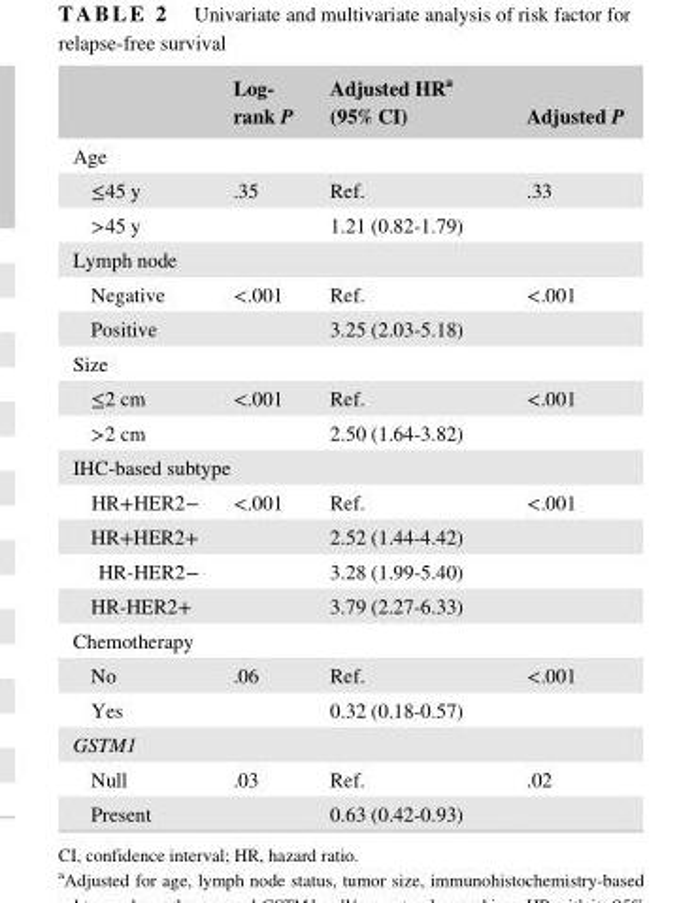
<table><thead><tr><td></td><td>Log- rank P</td><td>Adjusted HR<sup>a</sup> (95% CI)</td><td>Adjusted P</td></tr></thead><tbody><tr><td colspan="4">Age</td></tr><tr><td>≤45 y</td><td>.35</td><td>Ref.</td><td>.33</td></tr><tr><td>&gt;45 y</td><td></td><td>1.21 (0.82- 1.79)</td><td></td></tr><tr><td colspan="4">Lymph node</td></tr><tr><td>Negative</td><td>&lt;.001</td><td>Ref.</td><td>&lt;.001</td></tr><tr><td>Positive</td><td></td><td>3.25 (2.03- 5.18)</td><td></td></tr><tr><td colspan="4">Size</td></tr><tr><td>≤2 cm</td><td>&lt;.001</td><td>Ref.</td><td>&lt;.001</td></tr><tr><td>&gt;2 cm</td><td></td><td>2.50 (1.64- 3.82)</td><td></td></tr><tr><td colspan="4">IHC- based subtype</td></tr><tr><td>HR+HER2−</td><td>&lt;.001</td><td>Ref.</td><td>&lt;.001</td></tr><tr><td>HR+HER2+</td><td></td><td>2.52 (1.44- 4.42)</td><td></td></tr><tr><td>HR- HER2−</td><td></td><td>3.28 (1.99- 5.40)</td><td></td></tr><tr><td>HR- HER2+</td><td></td><td>3.79 (2.27- 6.33)</td><td></td></tr><tr><td colspan="4">Chemotherapy</td></tr><tr><td>No</td><td>.06</td><td>Ref.</td><td>&lt;.001</td></tr><tr><td>Yes</td><td></td><td>0.32 (0.18- 0.57)</td><td></td></tr><tr><td colspan="4">GSTM1</td></tr><tr><td>Null</td><td>.03</td><td>Ref.</td><td>.02</td></tr><tr><td>Present</td><td></td><td>0.63 (0.42- 0.93)</td><td></td></tr></tbody></table>